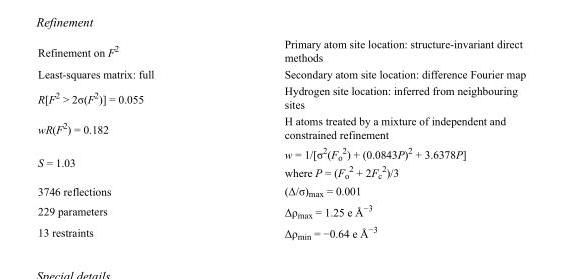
<table><tbody><tr><td>Refinement on F<sup>2</sup></td><td>Primary atom site location: structure-invariant direct methods</td></tr><tr><td>Least-squares matrix: full</td><td>Secondary atom site location: difference Fourier map</td></tr><tr><td>R[F<sup>2</sup> &gt; 2σ(F<sup>2</sup>)] = 0.055</td><td>Hydrogen site location: inferred from neighbouring sites</td></tr><tr><td>wR(F<sup>2</sup>) = 0.182</td><td>H atoms treated by a mixture of independent and constrained refinement</td></tr><tr><td>S = 1.03</td><td>w = 1/[σ<sup>2</sup>(F<sub>o</sub> <sup>2</sup>) + (0.0843P)<sup>2</sup> + 3.6378P] where P = (F<sub>o</sub> <sup>2</sup> + 2F<sub>c</sub> <sup>2</sup>)/3</td></tr><tr><td>3746 reflections</td><td>(Δ/σ)<sub>max</sub> = 0.001</td></tr><tr><td>229 parameters</td><td>Δρ<sub>max</sub> = 1.25 e Å<sup>−3</sup></td></tr><tr><td>13 restraints</td><td>Δρ<sub>min</sub> = −0.64 e Å<sup>−3</sup></td></tr></tbody></table>